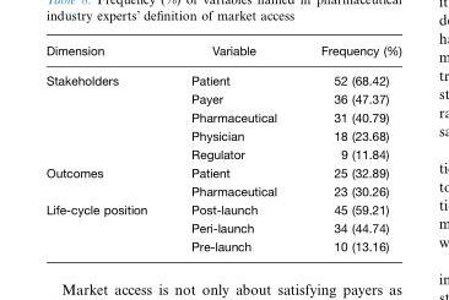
<table><thead><tr><td>Dimension</td><td>Variable</td><td>Frequency (%)</td></tr></thead><tbody><tr><td rowspan="5">Stakeholders</td><td>Patient</td><td>52 (68.42)</td></tr><tr><td>Payer</td><td>36 (47.37)</td></tr><tr><td>Pharmaceutical</td><td>31 (40.79)</td></tr><tr><td>Physician</td><td>18 (23.68)</td></tr><tr><td>Regulator</td><td>9 (11.84)</td></tr><tr><td rowspan="2">Outcomes</td><td>Patient</td><td>25 (32.89)</td></tr><tr><td>Pharmaceutical</td><td>23 (30.26)</td></tr><tr><td rowspan="3">Life-cycle position</td><td>Post-launch</td><td>45 (59.21)</td></tr><tr><td>Peri-launch</td><td>34 (44.74)</td></tr><tr><td>Pre-launch</td><td>10 (13.16)</td></tr></tbody></table>